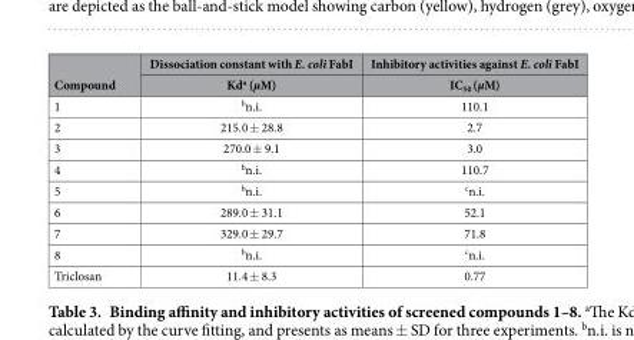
<table><thead><tr><td rowspan="2">Compound</td><td rowspan="2">Dissociation constant with E. coli FabI Kd<sup>a</sup> (μM)</td><td rowspan="2">Inhibitory activities against E. coli FabI IC<sub>50</sub> (μM)</td></tr><tr></tr></thead><tbody><tr><td>1</td><td>bn.i.</td><td>110.1</td></tr><tr><td>2</td><td>215.0 ± 28.8</td><td>2.7</td></tr><tr><td>3</td><td>270.0 ± 9.1</td><td>3.0</td></tr><tr><td>4</td><td>bn.i.</td><td>110.7</td></tr><tr><td>5</td><td>bn.i.</td><td>cn.i.</td></tr><tr><td>6</td><td>289.0 ± 31.1</td><td>52.1</td></tr><tr><td>7</td><td>329.0 ± 29.7</td><td>71.8</td></tr><tr><td>8</td><td>bn.i.</td><td>cn.i.</td></tr><tr><td>Triclosan</td><td>11.4 ± 8.3</td><td>0.77</td></tr></tbody></table>